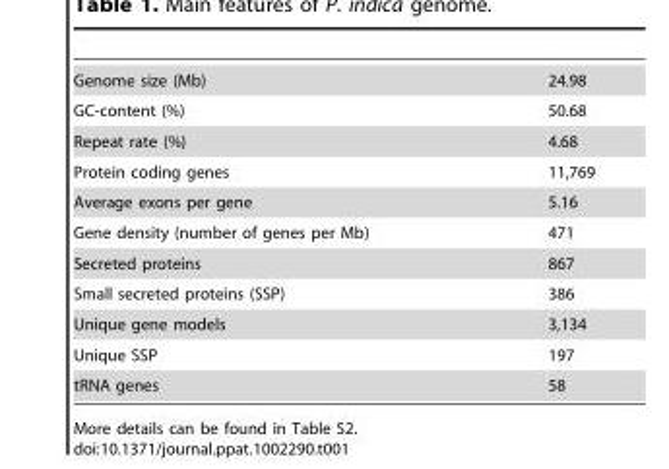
<table><tbody><tr><td>Genome size (Mb)</td><td>24.98</td></tr><tr><td>GC-content (%)</td><td>50.68</td></tr><tr><td>Repeat rate (%)</td><td>4.68</td></tr><tr><td>Protein coding genes</td><td>11,769</td></tr><tr><td>Average exons per gene</td><td>5.16</td></tr><tr><td>Gene density (number of genes per Mb)</td><td>471</td></tr><tr><td>Secreted proteins</td><td>867</td></tr><tr><td>Small secreted proteins (SSP)</td><td>386</td></tr><tr><td>Unique gene models</td><td>3,134</td></tr><tr><td>Unique SSP</td><td>197</td></tr><tr><td>tRNA genes</td><td>58</td></tr></tbody></table>